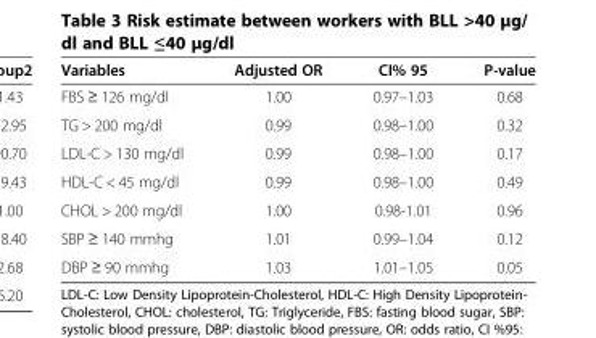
<table><thead><tr><td>Variables</td><td>Adjusted OR</td><td>CI% 95</td><td>P-value</td></tr></thead><tbody><tr><td>FBS ≥ 126 mg/dl</td><td>1.00</td><td>0.97–1.03</td><td>0.68</td></tr><tr><td>TG &gt; 200 mg/dl</td><td>0.99</td><td>0.98–1.00</td><td>0.32</td></tr><tr><td>LDL-C &gt; 130 mg/dl</td><td>0.99</td><td>0.98–1.00</td><td>0.17</td></tr><tr><td>HDL-C &lt; 45 mg/dl</td><td>0.99</td><td>0.98–1.00</td><td>0.49</td></tr><tr><td>CHOL &gt; 200 mg/dl</td><td>1.00</td><td>0.98-1.01</td><td>0.96</td></tr><tr><td>SBP ≥ 140 mmhg</td><td>1.01</td><td>0.99–1.04</td><td>0.12</td></tr><tr><td>DBP ≥ 90 mmhg</td><td>1.03</td><td>1.01–1.05</td><td>0.05</td></tr></tbody></table>